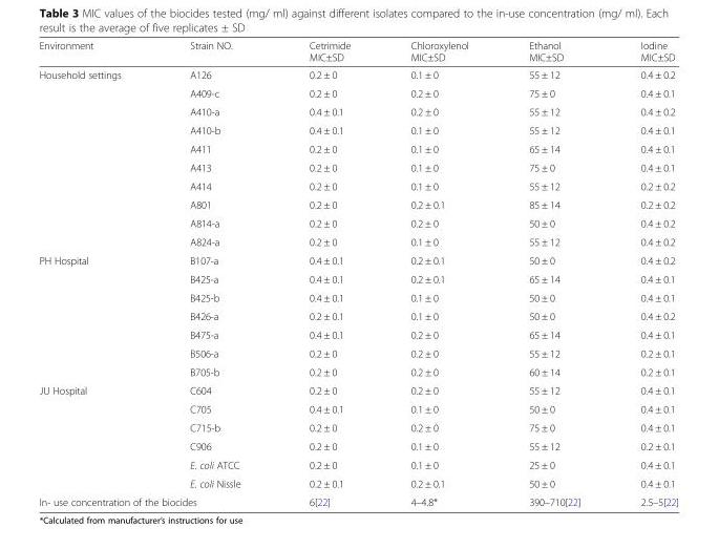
<table><thead><tr><td>Environment</td><td>Strain NO.</td><td>Cetrimide MIC±SD</td><td>Chloroxylenol MIC±SD</td><td>Ethanol MIC±SD</td><td>Iodine MIC±SD</td></tr></thead><tbody><tr><td rowspan="10">Household settings</td><td>A126</td><td>0.2 ± 0</td><td>0.1 ± 0</td><td>55 ± 12</td><td>0.4 ± 0.2</td></tr><tr><td>A409-c</td><td>0.2 ± 0</td><td>0.2 ± 0</td><td>75 ± 0</td><td>0.4 ± 0.1</td></tr><tr><td>A410-a</td><td>0.4 ± 0.1</td><td>0.2 ± 0</td><td>55 ± 12</td><td>0.4 ± 0.2</td></tr><tr><td>A410-b</td><td>0.4 ± 0.1</td><td>0.1 ± 0</td><td>55 ± 12</td><td>0.4 ± 0.1</td></tr><tr><td>A411</td><td>0.2 ± 0</td><td>0.1 ± 0</td><td>65 ± 14</td><td>0.4 ± 0.1</td></tr><tr><td>A413</td><td>0.2 ± 0</td><td>0.1 ± 0</td><td>75 ± 0</td><td>0.4 ± 0.1</td></tr><tr><td>A414</td><td>0.2 ± 0</td><td>0.1 ± 0</td><td>55 ± 12</td><td>0.2 ± 0.2</td></tr><tr><td>A801</td><td>0.2 ± 0</td><td>0.2 ± 0.1</td><td>85 ± 14</td><td>0.2 ± 0.2</td></tr><tr><td>A814-a</td><td>0.2 ± 0</td><td>0.2 ± 0</td><td>50 ± 0</td><td>0.4 ± 0.2</td></tr><tr><td>A824-a</td><td>0.2 ± 0</td><td>0.1 ± 0</td><td>55 ± 12</td><td>0.4 ± 0.2</td></tr><tr><td rowspan="7">PH Hospital</td><td>B107-a</td><td>0.4 ± 0.1</td><td>0.2 ± 0.1</td><td>50 ± 0</td><td>0.4 ± 0.2</td></tr><tr><td>B425-a</td><td>0.4 ± 0.1</td><td>0.2 ± 0.1</td><td>65 ± 14</td><td>0.4 ± 0.1</td></tr><tr><td>B425-b</td><td>0.4 ± 0.1</td><td>0.1 ± 0</td><td>50 ± 0</td><td>0.4 ± 0.1</td></tr><tr><td>B426-a</td><td>0.2 ± 0.1</td><td>0.1 ± 0</td><td>50 ± 0</td><td>0.4 ± 0.2</td></tr><tr><td>B475-a</td><td>0.4 ± 0.1</td><td>0.2 ± 0</td><td>65 ± 14</td><td>0.4 ± 0.1</td></tr><tr><td>B506-a</td><td>0.2 ± 0</td><td>0.2 ± 0</td><td>55 ± 12</td><td>0.2 ± 0.1</td></tr><tr><td>B705-b</td><td>0.2 ± 0</td><td>0.2 ± 0</td><td>60 ± 14</td><td>0.2 ± 0.1</td></tr><tr><td rowspan="6">JU Hospital</td><td>C604</td><td>0.2 ± 0</td><td>0.2 ± 0</td><td>55 ± 12</td><td>0.4 ± 0.1</td></tr><tr><td>C705</td><td>0.4 ± 0.1</td><td>0.1 ± 0</td><td>50 ± 0</td><td>0.4 ± 0.1</td></tr><tr><td>C715-b</td><td>0.2 ± 0</td><td>0.2 ± 0</td><td>75 ± 0</td><td>0.4 ± 0.1</td></tr><tr><td>C906</td><td>0.2 ± 0</td><td>0.1 ± 0</td><td>55 ± 12</td><td>0.2 ± 0.1</td></tr><tr><td>E. coli ATCC</td><td>0.2 ± 0</td><td>0.1 ± 0</td><td>25 ± 0</td><td>0.4 ± 0.1</td></tr><tr><td>E. coli Nissle</td><td>0.2 ± 0.1</td><td>0.2 ± 0.1</td><td>50 ± 0</td><td>0.4 ± 0.1</td></tr><tr><td colspan="2">In- use concentration of the biocides</td><td>6[22]</td><td>4–4.8*</td><td>390–710[22]</td><td>2.5–5[22]</td></tr></tbody></table>